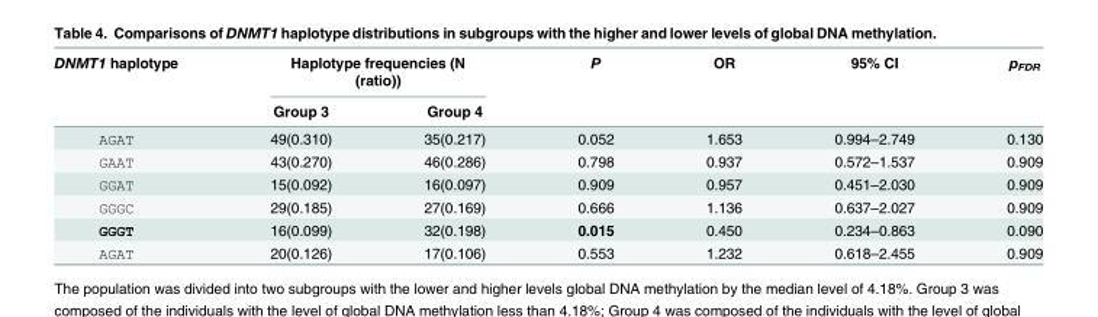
<table><thead><tr><td rowspan="2">DNMT1 haplotype</td><td colspan="2">Haplotype frequencies (N (ratio))</td><td rowspan="2">P</td><td rowspan="2">OR</td><td rowspan="2">95% CI</td><td rowspan="2">p<sub>FDR</sub></td></tr><tr><td>Group 3</td><td>Group 4</td></tr></thead><tbody><tr><td>AGAT</td><td>49(0.310)</td><td>35(0.217)</td><td>0.052</td><td>1.653</td><td>0.994–2.749</td><td>0.130</td></tr><tr><td>GAAT</td><td>43(0.270)</td><td>46(0.286)</td><td>0.798</td><td>0.937</td><td>0.572–1.537</td><td>0.909</td></tr><tr><td>GGAT</td><td>15(0.092)</td><td>16(0.097)</td><td>0.909</td><td>0.957</td><td>0.451–2.030</td><td>0.909</td></tr><tr><td>GGGC</td><td>29(0.185)</td><td>27(0.169)</td><td>0.666</td><td>1.136</td><td>0.637–2.027</td><td>0.909</td></tr><tr><td>GGGT</td><td>16(0.099)</td><td>32(0.198)</td><td>0.015</td><td>0.450</td><td>0.234–0.863</td><td>0.090</td></tr><tr><td>AGAT</td><td>20(0.126)</td><td>17(0.106)</td><td>0.553</td><td>1.232</td><td>0.618–2.455</td><td>0.909</td></tr></tbody></table>